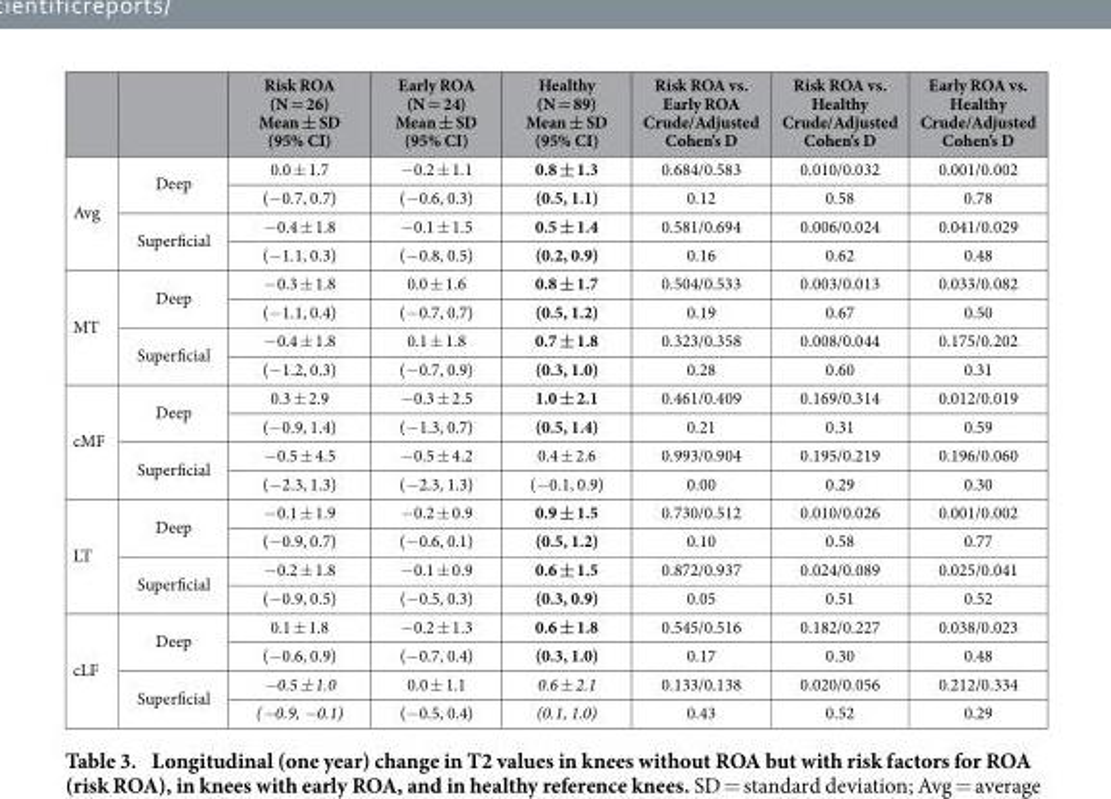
<table><thead><tr><td></td><td></td><td>Risk ROA (N = 26) Mean ± SD (95% CI)</td><td>Early ROA (N = 24) Mean ± SD (95% CI)</td><td>Healthy (N = 89) Mean ± SD (95% CI)</td><td>Risk ROA vs. Early ROA Crude/Adjusted Cohen’s D</td><td>Risk ROA vs. Healthy Crude/Adjusted Cohen’s D</td><td>Early ROA vs. Healthy Crude/Adjusted Cohen’s D</td></tr></thead><tbody><tr><td rowspan="4">Avg</td><td rowspan="2">Deep</td><td>0.0 ± 1.7</td><td>− 0.2 ± 1.1</td><td>0.8 ± 1.3</td><td>0.684/0.583</td><td>0.010/0.032</td><td>0.001/0.002</td></tr><tr><td>(− 0.7, 0.7)</td><td>(− 0.6, 0.3)</td><td>(0.5, 1.1)</td><td>0.12</td><td>0.58</td><td>0.78</td></tr><tr><td rowspan="2">Superficial</td><td>− 0.4 ± 1.8</td><td>− 0.1 ± 1.5</td><td>0.5 ± 1.4</td><td>0.581/0.694</td><td>0.006/0.024</td><td>0.041/0.029</td></tr><tr><td>(− 1.1, 0.3)</td><td>(− 0.8, 0.5)</td><td>(0.2, 0.9)</td><td>0.16</td><td>0.62</td><td>0.48</td></tr><tr><td rowspan="4">MT</td><td rowspan="2">Deep</td><td>− 0.3 ± 1.8</td><td>0.0 ± 1.6</td><td>0.8 ± 1.7</td><td>0.504/0.533</td><td>0.003/0.013</td><td>0.033/0.082</td></tr><tr><td>(− 1.1, 0.4)</td><td>(− 0.7, 0.7)</td><td>(0.5, 1.2)</td><td>0.19</td><td>0.67</td><td>0.50</td></tr><tr><td rowspan="2">Superficial</td><td>− 0.4 ± 1.8</td><td>0.1 ± 1.8</td><td>0.7 ± 1.8</td><td>0.323/0.358</td><td>0.008/0.044</td><td>0.175/0.202</td></tr><tr><td>(− 1.2, 0.3)</td><td>(− 0.7, 0.9)</td><td>(0.3, 1.0)</td><td>0.28</td><td>0.60</td><td>0.31</td></tr><tr><td rowspan="4">cMF</td><td rowspan="2">Deep</td><td>0.3 ± 2.9</td><td>− 0.3 ± 2.5</td><td>1.0 ± 2.1</td><td>0.461/0.409</td><td>0.169/0.314</td><td>0.012/0.019</td></tr><tr><td>(− 0.9, 1.4)</td><td>(− 1.3, 0.7)</td><td>(0.5, 1.4)</td><td>0.21</td><td>0.31</td><td>0.59</td></tr><tr><td rowspan="2">Superficial</td><td>− 0.5 ± 4.5</td><td>− 0.5 ± 4.2</td><td>0.4 ± 2.6</td><td>0.993/0.904</td><td>0.195/0.219</td><td>0.196/0.060</td></tr><tr><td>(− 2.3, 1.3)</td><td>(− 2.3, 1.3)</td><td>(− 0.1, 0.9)</td><td>0.00</td><td>0.29</td><td>0.30</td></tr><tr><td rowspan="4">LT</td><td rowspan="2">Deep</td><td>− 0.1 ± 1.9</td><td>− 0.2 ± 0.9</td><td>0.9 ± 1.5</td><td>0.730/0.512</td><td>0.010/0.026</td><td>0.001/0.002</td></tr><tr><td>(− 0.9, 0.7)</td><td>(− 0.6, 0.1)</td><td>(0.5, 1.2)</td><td>0.10</td><td>0.58</td><td>0.77</td></tr><tr><td rowspan="2">Superficial</td><td>− 0.2 ± 1.8</td><td>− 0.1 ± 0.9</td><td>0.6 ± 1.5</td><td>0.872/0.937</td><td>0.024/0.089</td><td>0.025/0.041</td></tr><tr><td>(− 0.9, 0.5)</td><td>(− 0.5, 0.3)</td><td>(0.3, 0.9)</td><td>0.05</td><td>0.51</td><td>0.52</td></tr><tr><td rowspan="4">cLF</td><td rowspan="2">Deep</td><td>0.1 ± 1.8</td><td>− 0.2 ± 1.3</td><td>0.6 ± 1.8</td><td>0.545/0.516</td><td>0.182/0.227</td><td>0.038/0.023</td></tr><tr><td>(− 0.6, 0.9)</td><td>(− 0.7, 0.4)</td><td>(0.3, 1.0)</td><td>0.17</td><td>0.30</td><td>0.48</td></tr><tr><td rowspan="2">Superficial</td><td>−0.5 ± 1.0</td><td>0.0 ± 1.1</td><td>0.6 ± 2.1</td><td>0.133/0.138</td><td>0.020/0.056</td><td>0.212/0.334</td></tr><tr><td>(−0.9, −0.1)</td><td>(− 0.5, 0.4)</td><td>(0.1, 1.0)</td><td>0.43</td><td>0.52</td><td>0.29</td></tr></tbody></table>